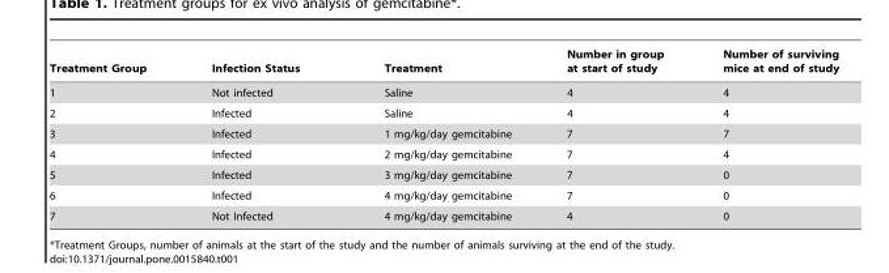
<table><thead><tr><td>Treatment Group</td><td>Infection Status</td><td>Treatment</td><td>Number in group at start of study</td><td>Number of surviving mice at end of study</td></tr></thead><tbody><tr><td>1</td><td>Not infected</td><td>Saline</td><td>4</td><td>4</td></tr><tr><td>2</td><td>Infected</td><td>Saline</td><td>4</td><td>4</td></tr><tr><td>3</td><td>Infected</td><td>1 mg/kg/day gemcitabine</td><td>7</td><td>7</td></tr><tr><td>4</td><td>Infected</td><td>2 mg/kg/day gemcitabine</td><td>7</td><td>4</td></tr><tr><td>5</td><td>Infected</td><td>3 mg/kg/day gemcitabine</td><td>7</td><td>0</td></tr><tr><td>6</td><td>Infected</td><td>4 mg/kg/day gemcitabine</td><td>7</td><td>0</td></tr><tr><td>7</td><td>Not Infected</td><td>4 mg/kg/day gemcitabine</td><td>4</td><td>0</td></tr></tbody></table>